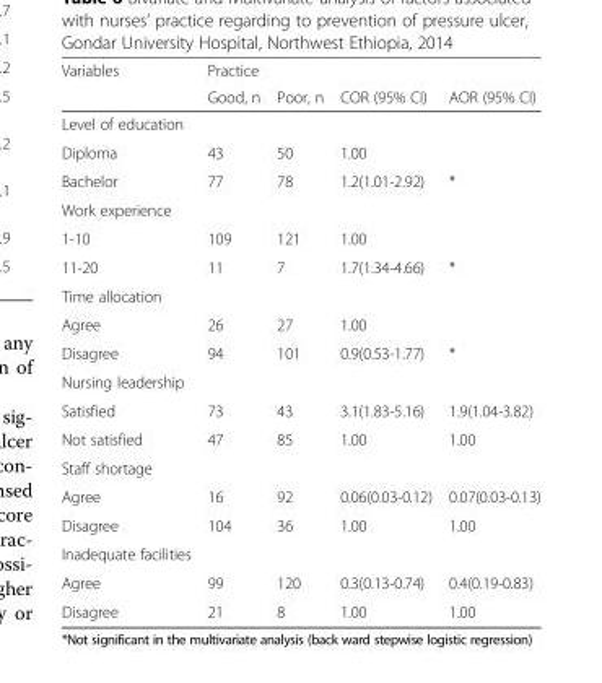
<table><thead><tr><td rowspan="2">Variables</td><td colspan="2">Practice</td><td rowspan="2">COR (95% CI)</td><td rowspan="2">AOR (95% CI)</td></tr><tr><td>Good, n</td><td>Poor, n</td></tr></thead><tbody><tr><td colspan="5">Level of education</td></tr><tr><td>Diploma</td><td>43</td><td>50</td><td>1.00</td><td></td></tr><tr><td>Bachelor</td><td>77</td><td>78</td><td>1.2(1.01-2.92)</td><td>*</td></tr><tr><td colspan="5">Work experience</td></tr><tr><td>1-10</td><td>109</td><td>121</td><td>1.00</td><td></td></tr><tr><td>11-20</td><td>11</td><td>7</td><td>1.7(1.34-4.66)</td><td>*</td></tr><tr><td colspan="5">Time allocation</td></tr><tr><td>Agree</td><td>26</td><td>27</td><td>1.00</td><td></td></tr><tr><td>Disagree</td><td>94</td><td>101</td><td>0.9(0.53-1.77)</td><td>*</td></tr><tr><td colspan="5">Nursing leadership</td></tr><tr><td>Satisfied</td><td>73</td><td>43</td><td>3.1(1.83-5.16)</td><td>1.9(1.04-3.82)</td></tr><tr><td>Not satisfied</td><td>47</td><td>85</td><td>1.00</td><td>1.00</td></tr><tr><td colspan="5">Staff shortage</td></tr><tr><td>Agree</td><td>16</td><td>92</td><td>0.06(0.03-0.12)</td><td>0.07(0.03-0.13)</td></tr><tr><td>Disagree</td><td>104</td><td>36</td><td>1.00</td><td>1.00</td></tr><tr><td colspan="5">Inadequate facilities</td></tr><tr><td>Agree</td><td>99</td><td>120</td><td>0.3(0.13-0.74)</td><td>0.4(0.19-0.83)</td></tr><tr><td>Disagree</td><td>21</td><td>8</td><td>1.00</td><td>1.00</td></tr></tbody></table>